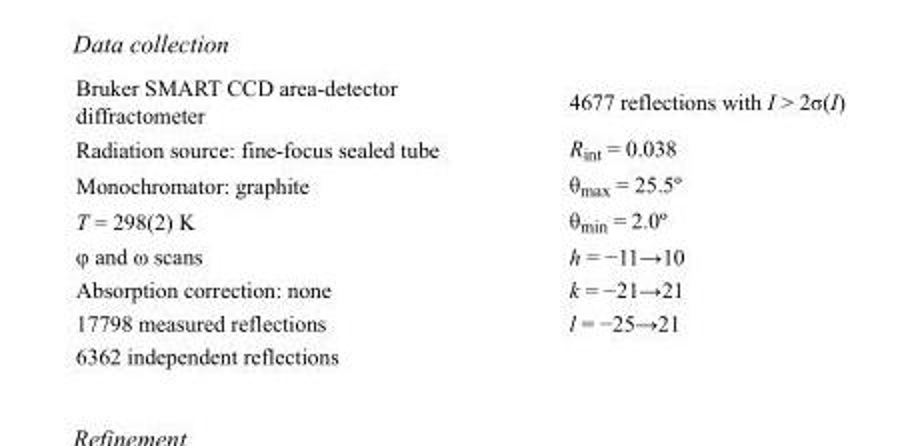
<table><tbody><tr><td>Bruker SMART CCD area-detector diffractometer</td><td>4677 reflections with I &gt; 2σ(I)</td></tr><tr><td>Radiation source: fine-focus sealed tube</td><td>R<sub>int</sub> = 0.038</td></tr><tr><td>Monochromator: graphite</td><td>θ<sub>max</sub> = 25.5º</td></tr><tr><td>T = 298(2) K</td><td>θ<sub>min</sub> = 2.0º</td></tr><tr><td>φ and ω scans</td><td>h = −11→10</td></tr><tr><td>Absorption correction: none</td><td>k = −21→21</td></tr><tr><td>17798 measured reflections</td><td>l = −25→21</td></tr><tr><td>6362 independent reflections</td><td></td></tr></tbody></table>